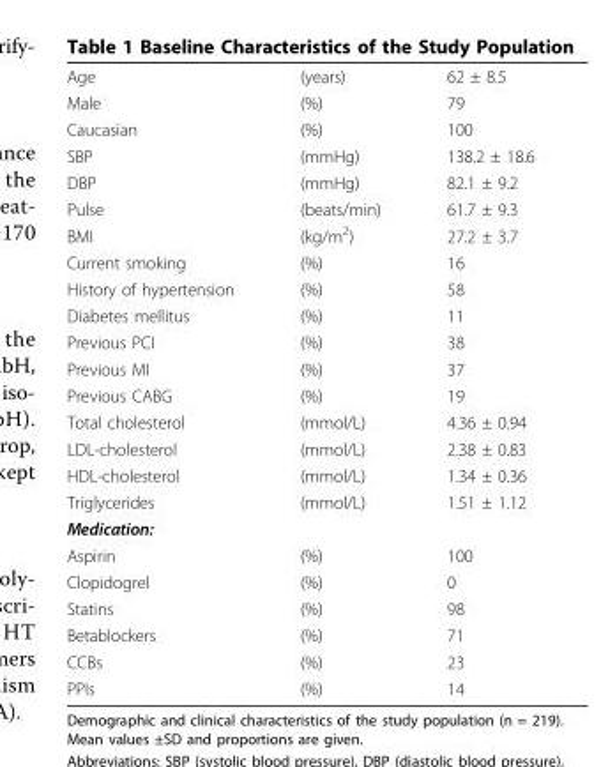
<table><tbody><tr><td>Age</td><td>(years)</td><td>62 ± 8.5</td></tr><tr><td>Male</td><td>(%)</td><td>79</td></tr><tr><td>Caucasian</td><td>(%)</td><td>100</td></tr><tr><td>SBP</td><td>(mmHg)</td><td>138.2 ± 18.6</td></tr><tr><td>DBP</td><td>(mmHg)</td><td>82.1 ± 9.2</td></tr><tr><td>Pulse</td><td>(beats/min)</td><td>61.7 ± 9.3</td></tr><tr><td>BMI</td><td>(kg/m<sup>2</sup>)</td><td>27.2 ± 3.7</td></tr><tr><td>Current smoking</td><td>(%)</td><td>16</td></tr><tr><td>History of hypertension</td><td>(%)</td><td>58</td></tr><tr><td>Diabetes mellitus</td><td>(%)</td><td>11</td></tr><tr><td>Previous PCI</td><td>(%)</td><td>38</td></tr><tr><td>Previous MI</td><td>(%)</td><td>37</td></tr><tr><td>Previous CABG</td><td>(%)</td><td>19</td></tr><tr><td>Total cholesterol</td><td>(mmol/L)</td><td>4.36 ± 0.94</td></tr><tr><td>LDL-cholesterol</td><td>(mmol/L)</td><td>2.38 ± 0.83</td></tr><tr><td>HDL-cholesterol</td><td>(mmol/L)</td><td>1.34 ± 0.36</td></tr><tr><td>Triglycerides</td><td>(mmol/L)</td><td>1.51 ± 1.12</td></tr><tr><td colspan="3">Medication:</td></tr><tr><td>Aspirin</td><td>(%)</td><td>100</td></tr><tr><td>Clopidogrel</td><td>(%)</td><td>0</td></tr><tr><td>Statins</td><td>(%)</td><td>98</td></tr><tr><td>Betablockers</td><td>(%)</td><td>71</td></tr><tr><td>CCBs</td><td>(%)</td><td>23</td></tr><tr><td>PPIs</td><td>(%)</td><td>14</td></tr></tbody></table>